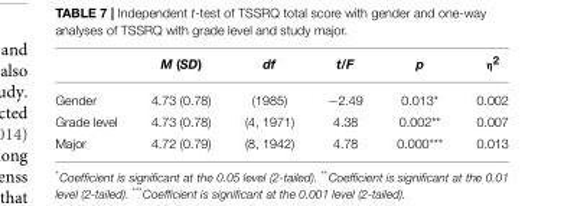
<table><thead><tr><td></td><td>M (SD)</td><td>df</td><td>t/F</td><td>p</td><td>η<sup>2</sup></td></tr></thead><tbody><tr><td>Gender</td><td>4.73 (0.78)</td><td>(1985)</td><td>−2.49</td><td>0.013*</td><td>0.002</td></tr><tr><td>Grade level</td><td>4.73 (0.78)</td><td>(4, 1971)</td><td>4.38</td><td>0.002**</td><td>0.007</td></tr><tr><td>Major</td><td>4.72 (0.79)</td><td>(8, 1942)</td><td>4.78</td><td>0.000***</td><td>0.013</td></tr></tbody></table>